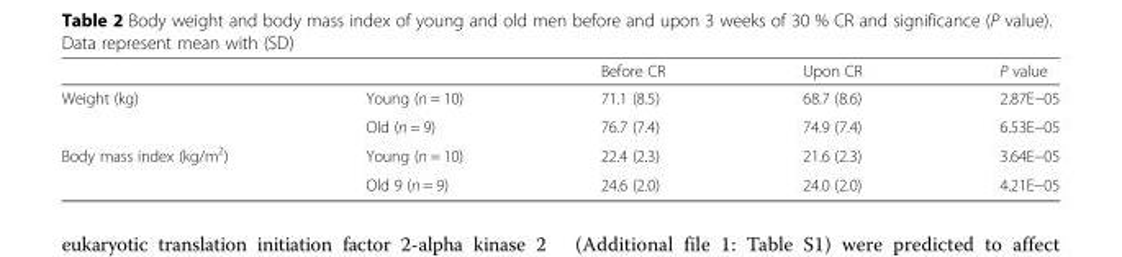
<table><thead><tr><td></td><td></td><td>Before CR</td><td>Upon CR</td><td>P value</td></tr></thead><tbody><tr><td rowspan="2">Weight (kg)</td><td>Young (n = 10)</td><td>71.1 (8.5)</td><td>68.7 (8.6)</td><td>2.87E−05</td></tr><tr><td>Old (n = 9)</td><td>76.7 (7.4)</td><td>74.9 (7.4)</td><td>6.53E−05</td></tr><tr><td rowspan="2">Body mass index (kg/m<sup>2</sup>)</td><td>Young (n = 10)</td><td>22.4 (2.3)</td><td>21.6 (2.3)</td><td>3.64E−05</td></tr><tr><td>Old 9 (n = 9)</td><td>24.6 (2.0)</td><td>24.0 (2.0)</td><td>4.21E−05</td></tr></tbody></table>